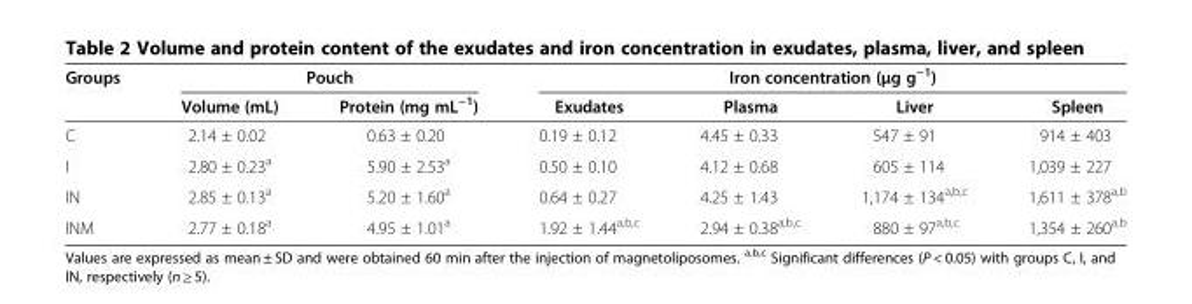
<table><thead><tr><td rowspan="2">Groups</td><td colspan="2">Pouch</td><td colspan="4">Iron concentration (μg g<sup>−1</sup>)</td></tr><tr><td>Volume (mL)</td><td>Protein (mg mL<sup>−1</sup>)</td><td>Exudates</td><td>Plasma</td><td>Liver</td><td>Spleen</td></tr></thead><tbody><tr><td>C</td><td>2.14 ± 0.02</td><td>0.63 ± 0.20</td><td>0.19 ± 0.12</td><td>4.45 ± 0.33</td><td>547 ± 91</td><td>914 ± 403</td></tr><tr><td>I</td><td>2.80 ± 0.23<sup>a</sup></td><td>5.90 ± 2.53<sup>a</sup></td><td>0.50 ± 0.10</td><td>4.12 ± 0.68</td><td>605 ± 114</td><td>1,039 ± 227</td></tr><tr><td>IN</td><td>2.85 ± 0.13<sup>a</sup></td><td>5.20 ± 1.60<sup>a</sup></td><td>0.64 ± 0.27</td><td>4.25 ± 1.43</td><td>1,174 ± 134<sup>a,b,c</sup></td><td>1,611 ± 378<sup>a,b</sup></td></tr><tr><td>INM</td><td>2.77 ± 0.18<sup>a</sup></td><td>4.95 ± 1.01<sup>a</sup></td><td>1.92 ± 1.44<sup>a,b,c</sup></td><td>2.94 ± 0.38<sup>a,b,c</sup></td><td>880 ± 97<sup>a,b,c</sup></td><td>1,354 ± 260<sup>a,b</sup></td></tr></tbody></table>